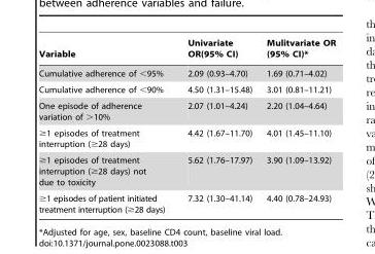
<table><thead><tr><td>Variable</td><td>Univariate OR(95% CI)</td><td>Mulitvariate OR (95% CI)*</td></tr></thead><tbody><tr><td>Cumulative adherence of &lt;95%</td><td>2.09 (0.93–4.70)</td><td>1.69 (0.71–4.02)</td></tr><tr><td>Cumulative adherence of &lt;90%</td><td>4.50 (1.31–15.48)</td><td>3.01 (0.81–11.21)</td></tr><tr><td>One episode of adherence variation of &gt;10%</td><td>2.07 (1.01–4.24)</td><td>2.20 (1.04–4.64)</td></tr><tr><td>≥1 episodes of treatment interruption (≥28 days)</td><td>4.42 (1.67–11.70)</td><td>4.01 (1.45–11.10)</td></tr><tr><td>≥1 episodes of treatment interruption (≥28 days) not due to toxicity</td><td>5.62 (1.76–17.97)</td><td>3.90 (1.09–13.92)</td></tr><tr><td>≥1 episodes of patient initiated treatment interruption (≥28 days)</td><td>7.32 (1.30–41.14)</td><td>4.40 (0.78–24.93)</td></tr></tbody></table>